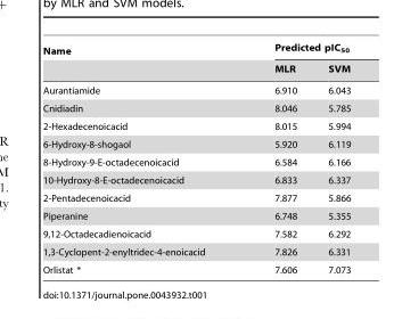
<table><thead><tr><td rowspan="2">Name</td><td colspan="2">Predicted pIC<sub>50</sub></td></tr><tr><td>MLR</td><td>SVM</td></tr></thead><tbody><tr><td>Aurantiamide</td><td>6.910</td><td>6.043</td></tr><tr><td>Cnidiadin</td><td>8.046</td><td>5.785</td></tr><tr><td>2-Hexadecenoicacid</td><td>8.015</td><td>5.994</td></tr><tr><td>6-Hydroxy-8-shogaol</td><td>5.920</td><td>6.119</td></tr><tr><td>8-Hydroxy-9-E-octadecenoicacid</td><td>6.584</td><td>6.166</td></tr><tr><td>10-Hydroxy-8-E-octadecenoicacid</td><td>6.833</td><td>6.337</td></tr><tr><td>2-Pentadecenoicacid</td><td>7.877</td><td>5.866</td></tr><tr><td>Piperanine</td><td>6.748</td><td>5.355</td></tr><tr><td>9,12-Octadecadienoicacid</td><td>7.582</td><td>6.292</td></tr><tr><td>1,3-Cyclopent-2-enyltridec-4-enoicacid</td><td>7.826</td><td>6.331</td></tr><tr><td>Orlistat *</td><td>7.606</td><td>7.073</td></tr></tbody></table>